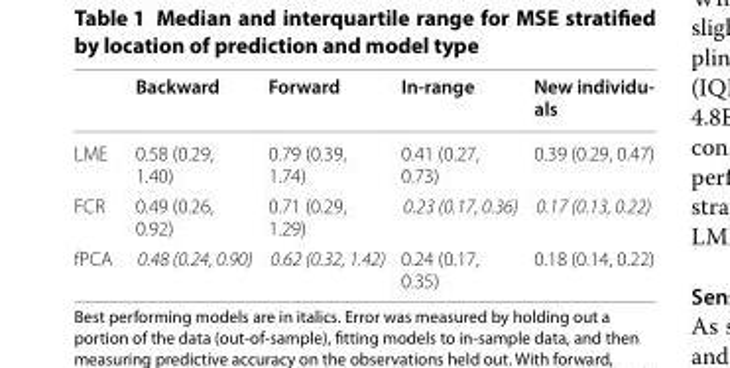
<table><thead><tr><td></td><td>Backward</td><td>Forward</td><td>In‑range</td><td>New individu‑ als</td></tr></thead><tbody><tr><td>LME</td><td>0.58 (0.29, 1.40)</td><td>0.79 (0.39, 1.74)</td><td>0.41 (0.27, 0.73)</td><td>0.39 (0.29, 0.47)</td></tr><tr><td>FCR</td><td>0.49 (0.26, 0.92)</td><td>0.71 (0.29, 1.29)</td><td>0.23 (0.17, 0.36)</td><td>0.17 (0.13, 0.22)</td></tr><tr><td>fPCA</td><td>0.48 (0.24, 0.90)</td><td>0.62 (0.32, 1.42)</td><td>0.24 (0.17, 0.35)</td><td>0.18 (0.14, 0.22)</td></tr></tbody></table>